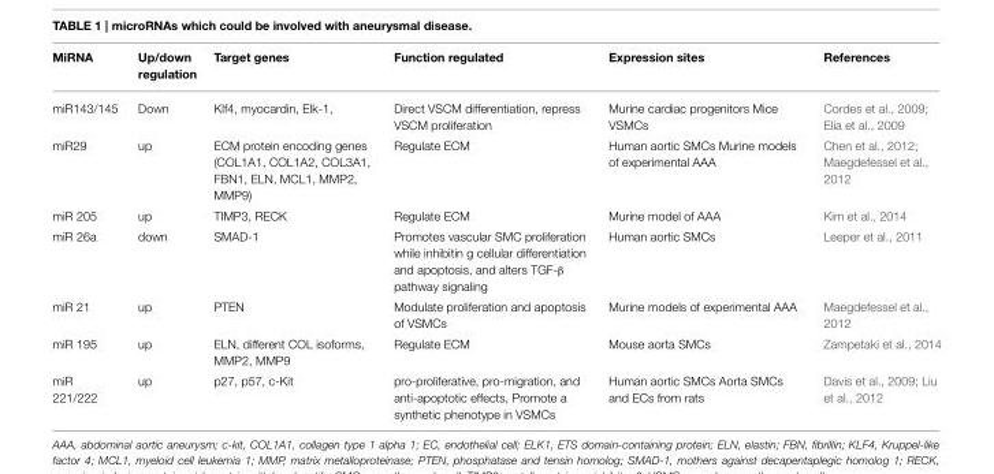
<table><thead><tr><td>MiRNA</td><td>Up/down regulation</td><td>Target genes</td><td>Function regulated</td><td>Expression sites</td><td>References</td></tr></thead><tbody><tr><td>miR143/145</td><td>Down</td><td>Klf4, myocardin, Elk-1,</td><td>Direct VSCM differentiation, repress VSCM proliferation</td><td>Murine cardiac progenitors Mice VSMCs</td><td>Cordes et al., 2009; Elia et al., 2009</td></tr><tr><td>miR29</td><td>up</td><td>ECM protein encoding genes (COL1A1, COL1A2, COL3A1, FBN1, ELN, MCL1, MMP2, MMP9)</td><td>Regulate ECM</td><td>Human aortic SMCs Murine models of experimental AAA</td><td>Chen et al., 2012; Maegdefessel et al., 2012</td></tr><tr><td>miR 205</td><td>up</td><td>TIMP3, RECK</td><td>Regulate ECM</td><td>Murine model of AAA</td><td>Kim et al., 2014</td></tr><tr><td>miR 26a</td><td>down</td><td>SMAD-1</td><td>Promotes vascular SMC proliferation while inhibitin g cellular differentiation and apoptosis, and alters TGF-β pathway signaling</td><td>Human aortic SMCs</td><td>Leeper et al., 2011</td></tr><tr><td>miR 21</td><td>up</td><td>PTEN</td><td>Modulate proliferation and apoptosis of VSMCs</td><td>Murine models of experimental AAA</td><td>Maegdefessel et al., 2012</td></tr><tr><td>miR 195</td><td>up</td><td>ELN, different COL isoforms, MMP2, MMP9</td><td>Regulate ECM</td><td>Mouse aorta SMCs</td><td>Zampetaki et al., 2014</td></tr><tr><td>miR 221/222</td><td>up</td><td>p27, p57, c-Kit</td><td>pro-proliferative, pro-migration, and anti-apoptotic effects, Promote a synthetic phenotype in VSMCs</td><td>Human aortic SMCs Aorta SMCs and ECs from rats</td><td>Davis et al., 2009; Liu et al., 2012</td></tr></tbody></table>